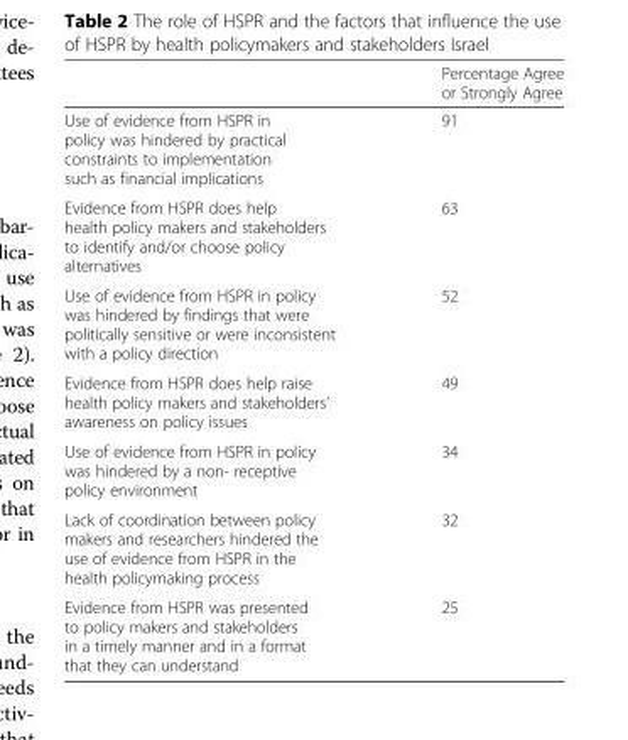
<table><thead><tr><td></td><td>Percentage Agree or Strongly Agree</td></tr></thead><tbody><tr><td>Use of evidence from HSPR in policy was hindered by practical constraints to implementation such as financial implications</td><td>91</td></tr><tr><td>Evidence from HSPR does help health policy makers and stakeholders to identify and/or choose policy alternatives</td><td>63</td></tr><tr><td>Use of evidence from HSPR in policy was hindered by findings that were politically sensitive or were inconsistent with a policy direction</td><td>52</td></tr><tr><td>Evidence from HSPR does help raise health policy makers and stakeholders’ awareness on policy issues</td><td>49</td></tr><tr><td>Use of evidence from HSPR in policy was hindered by a non- receptive policy environment</td><td>34</td></tr><tr><td>Lack of coordination between policy makers and researchers hindered the use of evidence from HSPR in the health policymaking process</td><td>32</td></tr><tr><td>Evidence from HSPR was presented to policy makers and stakeholders in a timely manner and in a format that they can understand</td><td>25</td></tr></tbody></table>